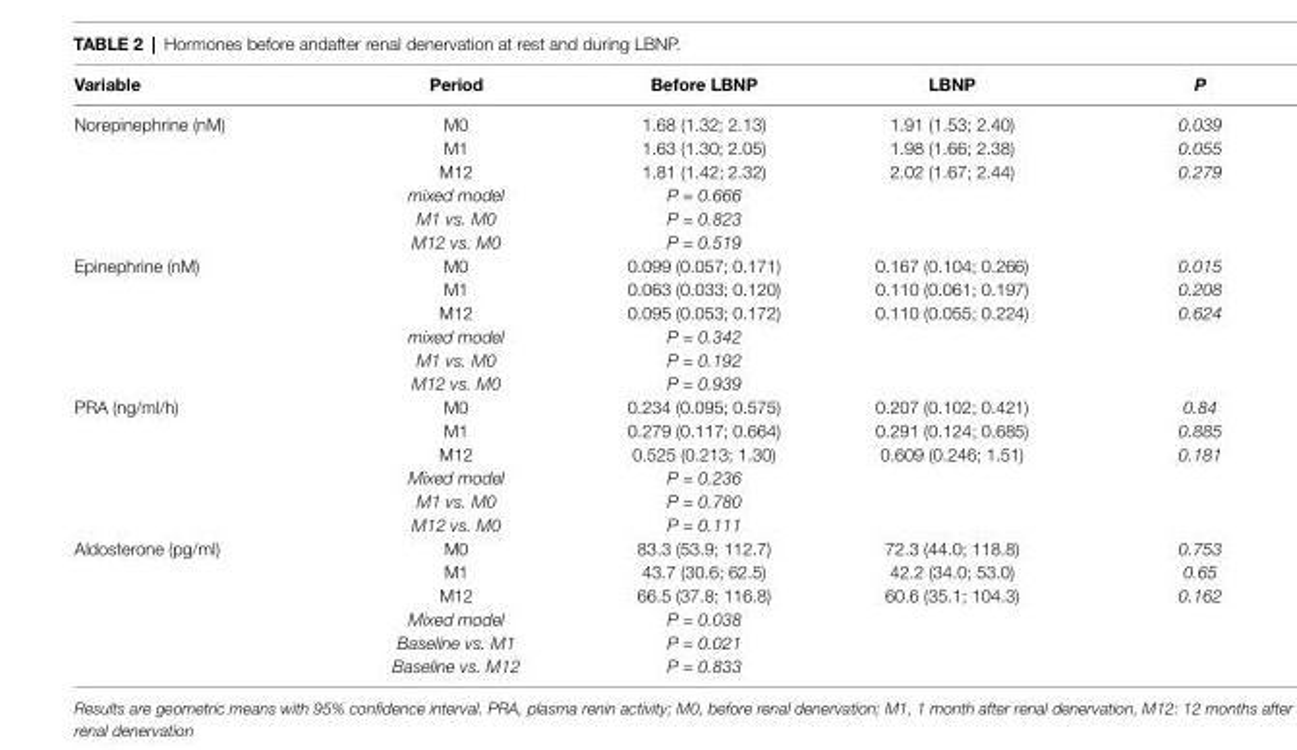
<table><thead><tr><td>Variable</td><td>Period</td><td>Before lBnP</td><td>lBnP</td><td>P</td></tr></thead><tbody><tr><td rowspan="6">Norepinephrine (nM)</td><td>M0</td><td>1.68 (1.32; 2.13)</td><td>1.91 (1.53; 2.40)</td><td>0.039</td></tr><tr><td>M1</td><td>1.63 (1.30; 2.05)</td><td>1.98 (1.66; 2.38)</td><td>0.055</td></tr><tr><td>M12</td><td>1.81 (1.42; 2.32)</td><td>2.02 (1.67; 2.44)</td><td>0.279</td></tr><tr><td>mixed model</td><td>P = 0.666</td><td></td><td></td></tr><tr><td>M1 vs. M0</td><td>P = 0.823</td><td></td><td></td></tr><tr><td>M12 vs. M0</td><td>P = 0.519</td><td></td><td></td></tr><tr><td rowspan="6">Epinephrine (nM)</td><td>M0</td><td>0.099 (0.057; 0.171)</td><td>0.167 (0.104; 0.266)</td><td>0.015</td></tr><tr><td>M1</td><td>0.063 (0.033; 0.120)</td><td>0.110 (0.061; 0.197)</td><td>0.208</td></tr><tr><td>M12</td><td>0.095 (0.053; 0.172)</td><td>0.110 (0.055; 0.224)</td><td>0.624</td></tr><tr><td>mixed model</td><td>P = 0.342</td><td></td><td></td></tr><tr><td>M1 vs. M0</td><td>P = 0.192</td><td></td><td></td></tr><tr><td>M12 vs. M0</td><td>P = 0.939</td><td></td><td></td></tr><tr><td rowspan="6">PRA (ng/ml/h)</td><td>M0</td><td>0.234 (0.095; 0.575)</td><td>0.207 (0.102; 0.421)</td><td>0.84</td></tr><tr><td>M1</td><td>0.279 (0.117; 0.664)</td><td>0.291 (0.124; 0.685)</td><td>0.885</td></tr><tr><td>M12</td><td>0.525 (0.213; 1.30)</td><td>0.609 (0.246; 1.51)</td><td>0.181</td></tr><tr><td>Mixed model</td><td>P = 0.236</td><td></td><td></td></tr><tr><td>M1 vs. M0</td><td>P = 0.780</td><td></td><td></td></tr><tr><td>M12 vs. M0</td><td>P = 0.111</td><td></td><td></td></tr><tr><td rowspan="6">Aldosterone (pg/ml)</td><td>M0</td><td>83.3 (53.9; 112.7)</td><td>72.3 (44.0; 118.8)</td><td>0.753</td></tr><tr><td>M1</td><td>43.7 (30.6; 62.5)</td><td>42.2 (34.0; 53.0)</td><td>0.65</td></tr><tr><td>M12</td><td>66.5 (37.8; 116.8)</td><td>60.6 (35.1; 104.3)</td><td>0.162</td></tr><tr><td>Mixed model</td><td>P = 0.038</td><td></td><td></td></tr><tr><td>Baseline vs. M1</td><td>P = 0.021</td><td></td><td></td></tr><tr><td>Baseline vs. M12</td><td>P = 0.833</td><td></td><td></td></tr></tbody></table>